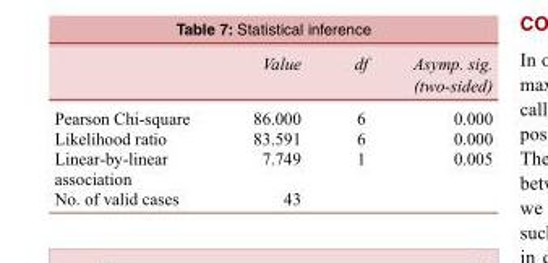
<table><thead><tr><td></td><td>Value</td><td>df</td><td>Asymp. sig. (two-sided)</td></tr></thead><tbody><tr><td>Pearson Chi-square</td><td>86.000</td><td>6</td><td>0.000</td></tr><tr><td>Likelihood ratio</td><td>83.591</td><td>6</td><td>0.000</td></tr><tr><td>Linear-by-linear</td><td>7.749</td><td>1</td><td>0.005</td></tr><tr><td colspan="4">association</td></tr><tr><td>No. of valid cases</td><td>43</td><td></td><td></td></tr></tbody></table>